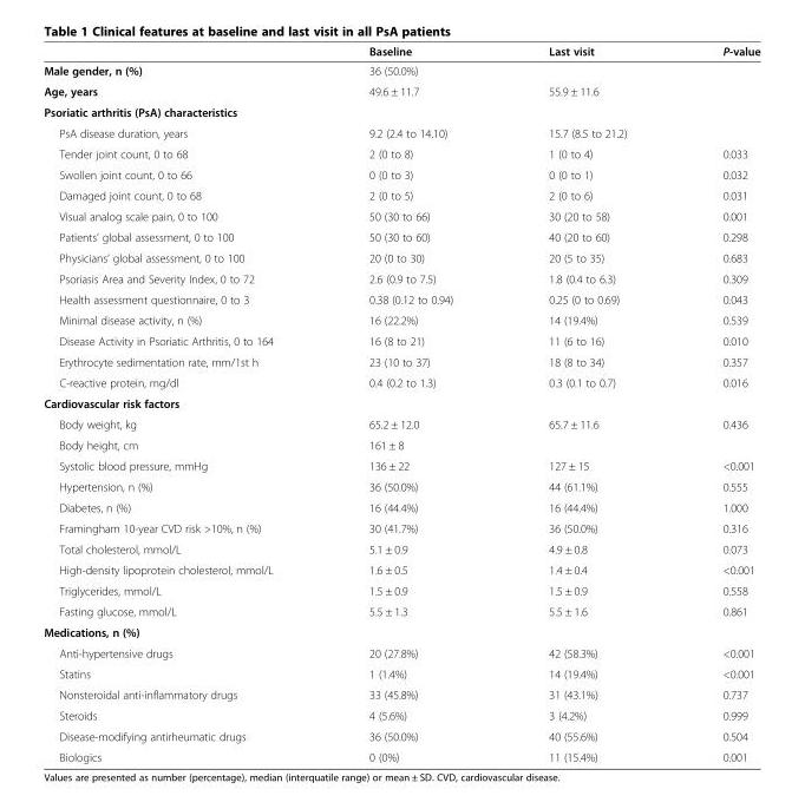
<table><thead><tr><td></td><td>Baseline</td><td>Last visit</td><td>P-value</td></tr></thead><tbody><tr><td>Male gender, n (%)</td><td colspan="2">36 (50.0%)</td><td></td></tr><tr><td>Age, years</td><td>49.6 ± 11.7</td><td>55.9 ± 11.6</td><td></td></tr><tr><td colspan="4">Psoriatic arthritis (PsA) characteristics</td></tr><tr><td>PsA disease duration, years</td><td>9.2 (2.4 to 14.10)</td><td>15.7 (8.5 to 21.2)</td><td></td></tr><tr><td>Tender joint count, 0 to 68</td><td>2 (0 to 8)</td><td>1 (0 to 4)</td><td>0.033</td></tr><tr><td>Swollen joint count, 0 to 66</td><td>0 (0 to 3)</td><td>0 (0 to 1)</td><td>0.032</td></tr><tr><td>Damaged joint count, 0 to 68</td><td>2 (0 to 5)</td><td>2 (0 to 6)</td><td>0.031</td></tr><tr><td>Visual analog scale pain, 0 to 100</td><td>50 (30 to 66)</td><td>30 (20 to 58)</td><td>0.001</td></tr><tr><td>Patients’ global assessment, 0 to 100</td><td>50 (30 to 60)</td><td>40 (20 to 60)</td><td>0.298</td></tr><tr><td>Physicians’ global assessment, 0 to 100</td><td>20 (0 to 30)</td><td>20 (5 to 35)</td><td>0.683</td></tr><tr><td>Psoriasis Area and Severity Index, 0 to 72</td><td>2.6 (0.9 to 7.5)</td><td>1.8 (0.4 to 6.3)</td><td>0.309</td></tr><tr><td>Health assessment questionnaire, 0 to 3</td><td>0.38 (0.12 to 0.94)</td><td>0.25 (0 to 0.69)</td><td>0.043</td></tr><tr><td>Minimal disease activity, n (%)</td><td>16 (22.2%)</td><td>14 (19.4%)</td><td>0.539</td></tr><tr><td>Disease Activity in Psoriatic Arthritis, 0 to 164</td><td>16 (8 to 21)</td><td>11 (6 to 16)</td><td>0.010</td></tr><tr><td>Erythrocyte sedimentation rate, mm/1st h</td><td>23 (10 to 37)</td><td>18 (8 to 34)</td><td>0.357</td></tr><tr><td>C-reactive protein, mg/dl</td><td>0.4 (0.2 to 1.3)</td><td>0.3 (0.1 to 0.7)</td><td>0.016</td></tr><tr><td colspan="4">Cardiovascular risk factors</td></tr><tr><td>Body weight, kg</td><td>65.2 ± 12.0</td><td>65.7 ± 11.6</td><td>0.436</td></tr><tr><td>Body height, cm</td><td colspan="2">161 ± 8</td><td></td></tr><tr><td>Systolic blood pressure, mmHg</td><td>136 ± 22</td><td>127 ± 15</td><td>&lt;0.001</td></tr><tr><td>Hypertension, n (%)</td><td>36 (50.0%)</td><td>44 (61.1%)</td><td>0.555</td></tr><tr><td>Diabetes, n (%)</td><td>16 (44.4%)</td><td>16 (44.4%)</td><td>1.000</td></tr><tr><td>Framingham 10-year CVD risk &gt;10%, n (%)</td><td>30 (41.7%)</td><td>36 (50.0%)</td><td>0.316</td></tr><tr><td>Total cholesterol, mmol/L</td><td>5.1 ± 0.9</td><td>4.9 ± 0.8</td><td>0.073</td></tr><tr><td>High-density lipoprotein cholesterol, mmol/L</td><td>1.6 ± 0.5</td><td>1.4 ± 0.4</td><td>&lt;0.001</td></tr><tr><td>Triglycerides, mmol/L</td><td>1.5 ± 0.9</td><td>1.5 ± 0.9</td><td>0.558</td></tr><tr><td>Fasting glucose, mmol/L</td><td>5.5 ± 1.3</td><td>5.5 ± 1.6</td><td>0.861</td></tr><tr><td colspan="4">Medications, n (%)</td></tr><tr><td>Anti-hypertensive drugs</td><td>20 (27.8%)</td><td>42 (58.3%)</td><td>&lt;0.001</td></tr><tr><td>Statins</td><td>1 (1.4%)</td><td>14 (19.4%)</td><td>&lt;0.001</td></tr><tr><td>Nonsteroidal anti-inflammatory drugs</td><td>33 (45.8%)</td><td>31 (43.1%)</td><td>0.737</td></tr><tr><td>Steroids</td><td>4 (5.6%)</td><td>3 (4.2%)</td><td>0.999</td></tr><tr><td>Disease-modifying antirheumatic drugs</td><td>36 (50.0%)</td><td>40 (55.6%)</td><td>0.504</td></tr><tr><td>Biologics</td><td>0 (0%)</td><td>11 (15.4%)</td><td>0.001</td></tr></tbody></table>